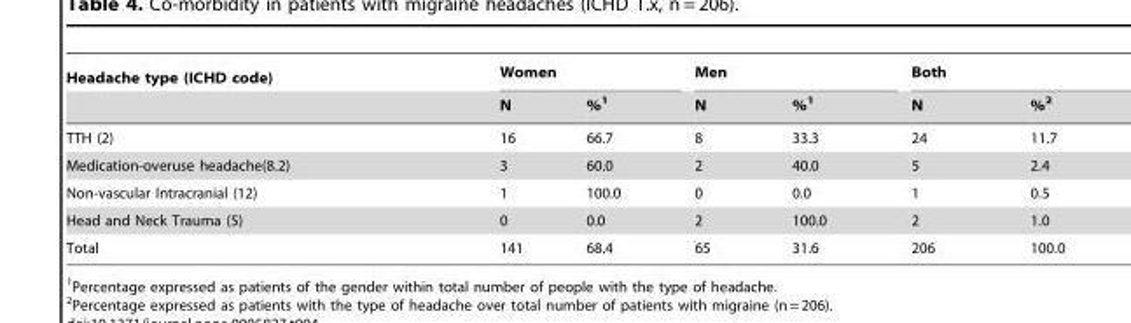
<table><thead><tr><td rowspan="2">Headache type (ICHD code)</td><td colspan="2">Women</td><td colspan="2">Men</td><td colspan="2">Both</td></tr><tr><td>N</td><td>%<sup>1</sup></td><td>N</td><td>%<sup>1</sup></td><td>N</td><td>%<sup>2</sup></td></tr></thead><tbody><tr><td>TTH (2)</td><td>16</td><td>66.7</td><td>8</td><td>33.3</td><td>24</td><td>11.7</td></tr><tr><td>Medication-overuse headache(8.2)</td><td>3</td><td>60.0</td><td>2</td><td>40.0</td><td>5</td><td>2.4</td></tr><tr><td>Non-vascular Intracranial (12)</td><td>1</td><td>100.0</td><td>0</td><td>0.0</td><td>1</td><td>0.5</td></tr><tr><td>Head and Neck Trauma (5)</td><td>0</td><td>0.0</td><td>2</td><td>100.0</td><td>2</td><td>1.0</td></tr><tr><td>Total</td><td>141</td><td>68.4</td><td>65</td><td>31.6</td><td>206</td><td>100.0</td></tr></tbody></table>